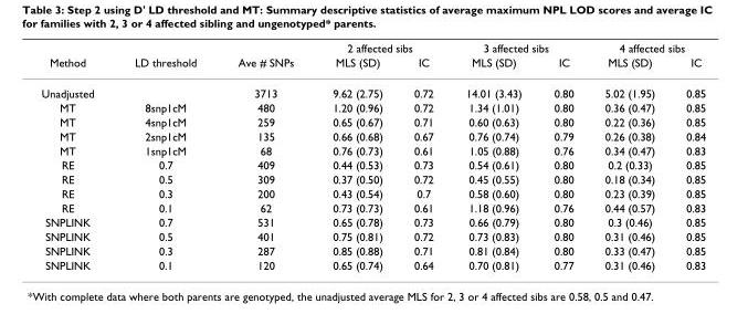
<table><thead><tr><td rowspan="2">Method</td><td rowspan="2">LD threshold</td><td rowspan="2">Ave # SNPs</td><td colspan="2">2 affected sibs</td><td colspan="2">3 affected sibs</td><td colspan="2">4 affected sibs</td></tr><tr><td>MLS (SD)</td><td>IC</td><td>MLS (SD)</td><td>IC</td><td>MLS (SD)</td><td>IC</td></tr></thead><tbody><tr><td>Unadjusted</td><td></td><td>3713</td><td>9.62 (2.75)</td><td>0.72</td><td>14.01 (3.43)</td><td>0.80</td><td>5.02 (1.95)</td><td>0.85</td></tr><tr><td>MT</td><td>8snp1cM</td><td>480</td><td>1.20 (0.96)</td><td>0.72</td><td>1.34 (1.01)</td><td>0.80</td><td>0.36 (0.47)</td><td>0.85</td></tr><tr><td>MT</td><td>4snp1cM</td><td>259</td><td>0.65 (0.67)</td><td>0.71</td><td>0.60 (0.63)</td><td>0.80</td><td>0.22 (0.36)</td><td>0.85</td></tr><tr><td>MT</td><td>2snp1cM</td><td>135</td><td>0.66 (0.68)</td><td>0.67</td><td>0.76 (0.74)</td><td>0.79</td><td>0.26 (0.38)</td><td>0.84</td></tr><tr><td>MT</td><td>1snp1cM</td><td>68</td><td>0.76 (0.73)</td><td>0.61</td><td>1.05 (0.88)</td><td>0.76</td><td>0.34 (0.47)</td><td>0.83</td></tr><tr><td>RE</td><td>0.7</td><td>409</td><td>0.44 (0.53)</td><td>0.73</td><td>0.54 (0.61)</td><td>0.80</td><td>0.2 (0.33)</td><td>0.85</td></tr><tr><td>RE</td><td>0.5</td><td>309</td><td>0.37 (0.50)</td><td>0.72</td><td>0.45 (0.55)</td><td>0.80</td><td>0.18 (0.34)</td><td>0.85</td></tr><tr><td>RE</td><td>0.3</td><td>200</td><td>0.43 (0.54)</td><td>0.7</td><td>0.58 (0.60)</td><td>0.80</td><td>0.23 (0.39)</td><td>0.85</td></tr><tr><td>RE</td><td>0.1</td><td>62</td><td>0.73 (0.73)</td><td>0.61</td><td>1.18 (0.96)</td><td>0.76</td><td>0.44 (0.57)</td><td>0.83</td></tr><tr><td>SNPLINK</td><td>0.7</td><td>531</td><td>0.65 (0.78)</td><td>0.73</td><td>0.66 (0.79)</td><td>0.80</td><td>0.3 (0.46)</td><td>0.85</td></tr><tr><td>SNPLINK</td><td>0.5</td><td>401</td><td>0.75 (0.81)</td><td>0.72</td><td>0.73 (0.83)</td><td>0.80</td><td>0.31 (0.46)</td><td>0.85</td></tr><tr><td>SNPLINK</td><td>0.3</td><td>287</td><td>0.85 (0.88)</td><td>0.71</td><td>0.81 (0.84)</td><td>0.80</td><td>0.33 (0.47)</td><td>0.85</td></tr><tr><td>SNPLINK</td><td>0.1</td><td>120</td><td>0.65 (0.74)</td><td>0.64</td><td>0.70 (0.81)</td><td>0.77</td><td>0.31 (0.46)</td><td>0.83</td></tr></tbody></table>